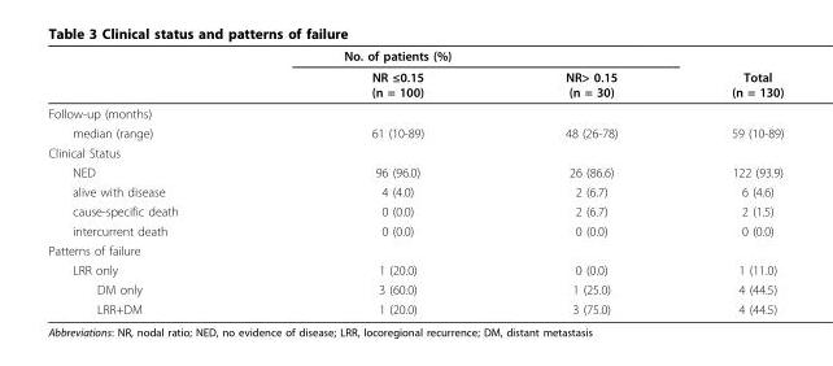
<table><thead><tr><td rowspan="2"></td><td rowspan="2">No. of patients (%) NR ≤0.15 (n = 100)</td><td rowspan="2">NR&gt; 0.15 (n = 30)</td><td rowspan="2">Total (n = 130)</td></tr><tr></tr></thead><tbody><tr><td colspan="4">Follow-up (months)</td></tr><tr><td>median (range)</td><td>61 (10-89)</td><td>48 (26-78)</td><td>59 (10-89)</td></tr><tr><td colspan="4">Clinical Status</td></tr><tr><td>NED</td><td>96 (96.0)</td><td>26 (86.6)</td><td>122 (93.9)</td></tr><tr><td>alive with disease</td><td>4 (4.0)</td><td>2 (6.7)</td><td>6 (4.6)</td></tr><tr><td>cause-specific death</td><td>0 (0.0)</td><td>2 (6.7)</td><td>2 (1.5)</td></tr><tr><td>intercurrent death</td><td>0 (0.0)</td><td>0 (0.0)</td><td>0 (0.0)</td></tr><tr><td colspan="4">Patterns of failure</td></tr><tr><td>LRR only</td><td>1 (20.0)</td><td>0 (0.0)</td><td>1 (11.0)</td></tr><tr><td>DM only</td><td>3 (60.0)</td><td>1 (25.0)</td><td>4 (44.5)</td></tr><tr><td>LRR+DM</td><td>1 (20.0)</td><td>3 (75.0)</td><td>4 (44.5)</td></tr></tbody></table>